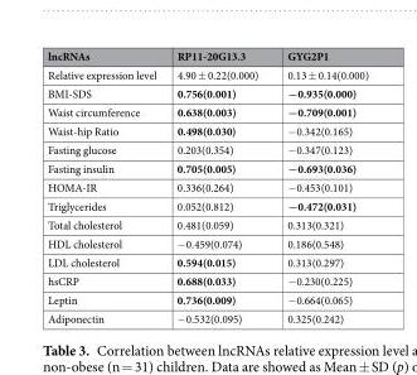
<table><thead><tr><td>lncRNAs</td><td>RP11-20G13.3</td><td>GYG2P1</td></tr></thead><tbody><tr><td>Relative expression level</td><td>4.90 ± 0.22(0.000)</td><td>0.13 ± 0.14(0.000)</td></tr><tr><td>BMI-SDS</td><td>0.756(0.001)</td><td>−0.935(0.000)</td></tr><tr><td>Waist circumference</td><td>0.638(0.003)</td><td>−0.709(0.001)</td></tr><tr><td>Waist-hip Ratio</td><td>0.498(0.030)</td><td>−0.342(0.165)</td></tr><tr><td>Fasting glucose</td><td>0.203(0.354)</td><td>−0.347(0.123)</td></tr><tr><td>Fasting insulin</td><td>0.705(0.005)</td><td>−0.693(0.036)</td></tr><tr><td>HOMA-IR</td><td>0.336(0.264)</td><td>−0.453(0.101)</td></tr><tr><td>Triglycerides</td><td>0.052(0.812)</td><td>−0.472(0.031)</td></tr><tr><td>Total cholesterol</td><td>0.481(0.059)</td><td>0.313(0.321)</td></tr><tr><td>HDL cholesterol</td><td>−0.459(0.074)</td><td>0.186(0.548)</td></tr><tr><td>LDL cholesterol</td><td>0.594(0.015)</td><td>0.313(0.297)</td></tr><tr><td>hsCRP</td><td>0.688(0.033)</td><td>−0.230(0.225)</td></tr><tr><td>Leptin</td><td>0.736(0.009)</td><td>−0.664(0.065)</td></tr><tr><td>Adiponectin</td><td>−0.532(0.095)</td><td>0.325(0.242)</td></tr></tbody></table>